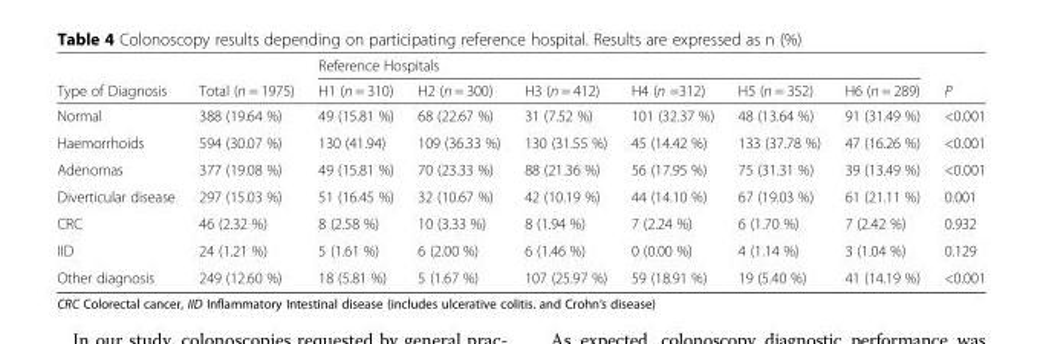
<table><thead><tr><td rowspan="2">Type of Diagnosis</td><td rowspan="2">Total (n = 1975)</td><td colspan="6">Reference Hospitals</td><td rowspan="2">P</td></tr><tr><td>H1 (n = 310)</td><td>H2 (n = 300)</td><td>H3 (n = 412)</td><td>H4 (n =312)</td><td>H5 (n = 352)</td><td>H6 (n = 289)</td></tr></thead><tbody><tr><td>Normal</td><td>388 (19.64 %)</td><td>49 (15.81 %)</td><td>68 (22.67 %)</td><td>31 (7.52 %)</td><td>101 (32.37 %)</td><td>48 (13.64 %)</td><td>91 (31.49 %)</td><td>&lt;0.001</td></tr><tr><td>Haemorrhoids</td><td>594 (30.07 %)</td><td>130 (41.94)</td><td>109 (36.33 %)</td><td>130 (31.55 %)</td><td>45 (14.42 %)</td><td>133 (37.78 %)</td><td>47 (16.26 %)</td><td>&lt;0.001</td></tr><tr><td>Adenomas</td><td>377 (19.08 %)</td><td>49 (15.81 %)</td><td>70 (23.33 %)</td><td>88 (21.36 %)</td><td>56 (17.95 %)</td><td>75 (31.31 %)</td><td>39 (13.49 %)</td><td>&lt;0.001</td></tr><tr><td>Diverticular disease</td><td>297 (15.03 %)</td><td>51 (16.45 %)</td><td>32 (10.67 %)</td><td>42 (10.19 %)</td><td>44 (14.10 %)</td><td>67 (19.03 %)</td><td>61 (21.11 %)</td><td>0.001</td></tr><tr><td>CRC</td><td>46 (2.32 %)</td><td>8 (2.58 %)</td><td>10 (3.33 %)</td><td>8 (1.94 %)</td><td>7 (2.24 %)</td><td>6 (1.70 %)</td><td>7 (2.42 %)</td><td>0.932</td></tr><tr><td>IID</td><td>24 (1.21 %)</td><td>5 (1.61 %)</td><td>6 (2.00 %)</td><td>6 (1.46 %)</td><td>0 (0.00 %)</td><td>4 (1.14 %)</td><td>3 (1.04 %)</td><td>0.129</td></tr><tr><td>Other diagnosis</td><td>249 (12.60 %)</td><td>18 (5.81 %)</td><td>5 (1.67 %)</td><td>107 (25.97 %)</td><td>59 (18.91 %)</td><td>19 (5.40 %)</td><td>41 (14.19 %)</td><td>&lt;0.001</td></tr></tbody></table>